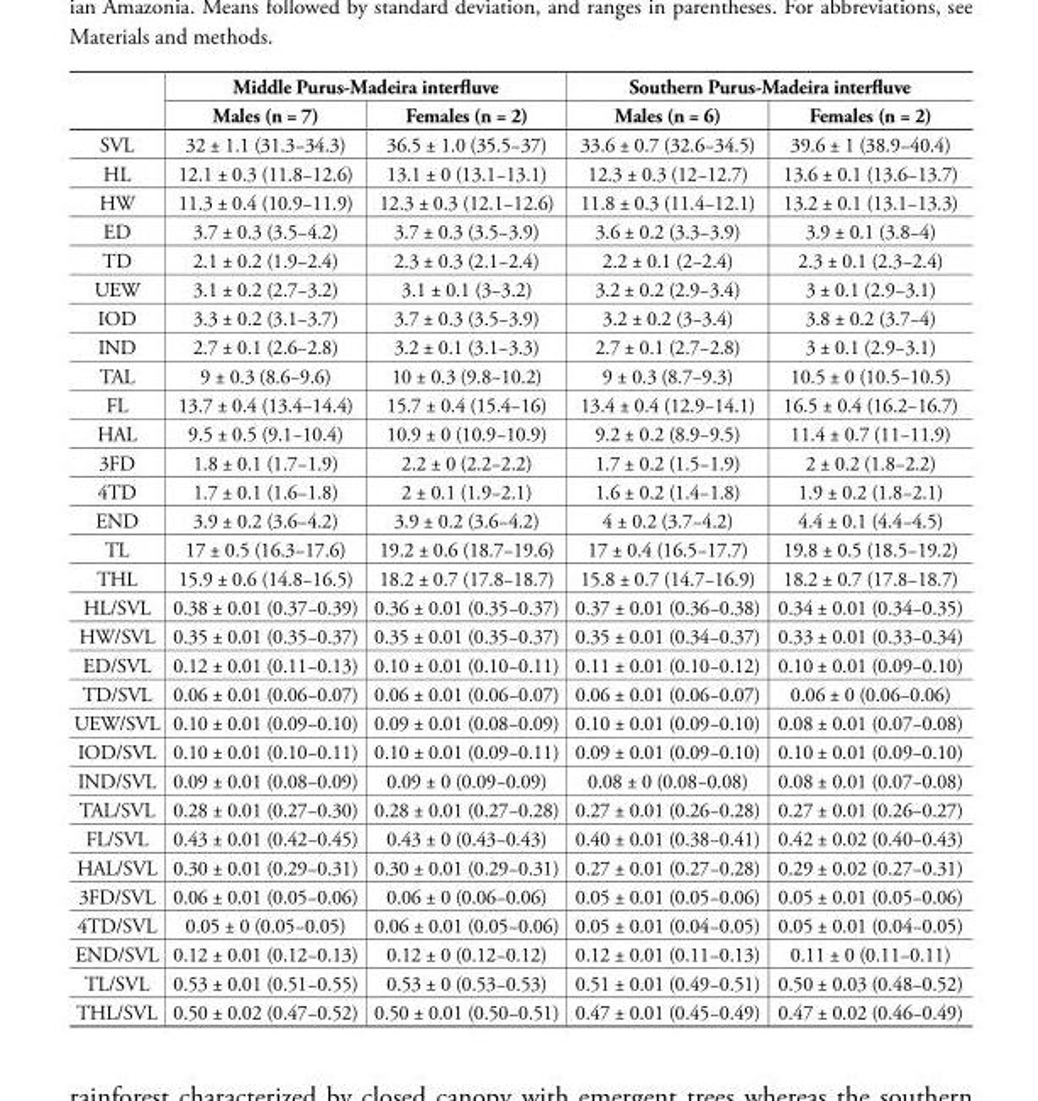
<table><thead><tr><td rowspan="2"></td><td colspan="2">Middle Purus-Madeira interfluve</td><td colspan="2">Southern Purus-Madeira interfluve</td></tr><tr><td>Males (n = 7)</td><td>Females (n = 2)</td><td>Males (n = 6)</td><td>Females (n = 2)</td></tr></thead><tbody><tr><td>SVL</td><td>32 ± 1.1 (31.3−34.3)</td><td>36.5 ± 1.0 (35.5−37)</td><td>33.6 ± 0.7 (32.6−34.5)</td><td>39.6 ± 1 (38.9−40.4)</td></tr><tr><td>HL</td><td>12.1 ± 0.3 (11.8−12.6)</td><td>13.1 ± 0 (13.1−13.1)</td><td>12.3 ± 0.3 (12−12.7)</td><td>13.6 ± 0.1 (13.6−13.7)</td></tr><tr><td>HW</td><td>11.3 ± 0.4 (10.9−11.9)</td><td>12.3 ± 0.3 (12.1−12.6)</td><td>11.8 ± 0.3 (11.4−12.1)</td><td>13.2 ± 0.1 (13.1−13.3)</td></tr><tr><td>ED</td><td>3.7 ± 0.3 (3.5−4.2)</td><td>3.7 ± 0.3 (3.5−3.9)</td><td>3.6 ± 0.2 (3.3−3.9)</td><td>3.9 ± 0.1 (3.8−4)</td></tr><tr><td>TD</td><td>2.1 ± 0.2 (1.9−2.4)</td><td>2.3 ± 0.3 (2.1−2.4)</td><td>2.2 ± 0.1 (2−2.4)</td><td>2.3 ± 0.1 (2.3−2.4)</td></tr><tr><td>UEW</td><td>3.1 ± 0.2 (2.7−3.2)</td><td>3.1 ± 0.1 (3−3.2)</td><td>3.2 ± 0.2 (2.9−3.4)</td><td>3 ± 0.1 (2.9−3.1)</td></tr><tr><td>IOD</td><td>3.3 ± 0.2 (3.1−3.7)</td><td>3.7 ± 0.3 (3.5−3.9)</td><td>3.2 ± 0.2 (3−3.4)</td><td>3.8 ± 0.2 (3.7−4)</td></tr><tr><td>IND</td><td>2.7 ± 0.1 (2.6−2.8)</td><td>3.2 ± 0.1 (3.1−3.3)</td><td>2.7 ± 0.1 (2.7−2.8)</td><td>3 ± 0.1 (2.9−3.1)</td></tr><tr><td>TAL</td><td>9 ± 0.3 (8.6−9.6)</td><td>10 ± 0.3 (9.8−10.2)</td><td>9 ± 0.3 (8.7−9.3)</td><td>10.5 ± 0 (10.5−10.5)</td></tr><tr><td>FL</td><td>13.7 ± 0.4 (13.4−14.4)</td><td>15.7 ± 0.4 (15.4−16)</td><td>13.4 ± 0.4 (12.9−14.1)</td><td>16.5 ± 0.4 (16.2−16.7)</td></tr><tr><td>HAL</td><td>9.5 ± 0.5 (9.1−10.4)</td><td>10.9 ± 0 (10.9−10.9)</td><td>9.2 ± 0.2 (8.9−9.5)</td><td>11.4 ± 0.7 (11−11.9)</td></tr><tr><td>3FD</td><td>1.8 ± 0.1 (1.7−1.9)</td><td>2.2 ± 0 (2.2−2.2)</td><td>1.7 ± 0.2 (1.5−1.9)</td><td>2 ± 0.2 (1.8−2.2)</td></tr><tr><td>4TD</td><td>1.7 ± 0.1 (1.6−1.8)</td><td>2 ± 0.1 (1.9−2.1)</td><td>1.6 ± 0.2 (1.4−1.8)</td><td>1.9 ± 0.2 (1.8−2.1)</td></tr><tr><td>END</td><td>3.9 ± 0.2 (3.6−4.2)</td><td>3.9 ± 0.2 (3.6−4.2)</td><td>4 ± 0.2 (3.7−4.2)</td><td>4.4 ± 0.1 (4.4−4.5)</td></tr><tr><td>TL</td><td>17 ± 0.5 (16.3−17.6)</td><td>19.2 ± 0.6 (18.7−19.6)</td><td>17 ± 0.4 (16.5−17.7)</td><td>19.8 ± 0.5 (18.5−19.2)</td></tr><tr><td>THL</td><td>15.9 ± 0.6 (14.8−16.5)</td><td>18.2 ± 0.7 (17.8−18.7)</td><td>15.8 ± 0.7 (14.7−16.9)</td><td>18.2 ± 0.7 (17.8−18.7)</td></tr><tr><td>HL/SVL</td><td>0.38 ± 0.01 (0.37−0.39)</td><td>0.36 ± 0.01 (0.35−0.37)</td><td>0.37 ± 0.01 (0.36−0.38)</td><td>0.34 ± 0.01 (0.34−0.35)</td></tr><tr><td>HW/SVL</td><td>0.35 ± 0.01 (0.35−0.37)</td><td>0.35 ± 0.01 (0.35−0.37)</td><td>0.35 ± 0.01 (0.34−0.37)</td><td>0.33 ± 0.01 (0.33−0.34)</td></tr><tr><td>ED/SVL</td><td>0.12 ± 0.01 (0.11−0.13)</td><td>0.10 ± 0.01 (0.10−0.11)</td><td>0.11 ± 0.01 (0.10−0.12)</td><td>0.10 ± 0.01 (0.09−0.10)</td></tr><tr><td>TD/SVL</td><td>0.06 ± 0.01 (0.06−0.07)</td><td>0.06 ± 0.01 (0.06−0.07)</td><td>0.06 ± 0.01 (0.06−0.07)</td><td>0.06 ± 0 (0.06−0.06)</td></tr><tr><td>UEW/SVL</td><td>0.10 ± 0.01 (0.09−0.10)</td><td>0.09 ± 0.01 (0.08−0.09)</td><td>0.10 ± 0.01 (0.09−0.10)</td><td>0.08 ± 0.01 (0.07−0.08)</td></tr><tr><td>IOD/SVL</td><td>0.10 ± 0.01 (0.10−0.11)</td><td>0.10 ± 0.01 (0.09−0.11)</td><td>0.09 ± 0.01 (0.09−0.10)</td><td>0.10 ± 0.01 (0.09−0.10)</td></tr><tr><td>IND/SVL</td><td>0.09 ± 0.01 (0.08−0.09)</td><td>0.09 ± 0 (0.09−0.09)</td><td>0.08 ± 0 (0.08−0.08)</td><td>0.08 ± 0.01 (0.07−0.08)</td></tr><tr><td>TAL/SVL</td><td>0.28 ± 0.01 (0.27−0.30)</td><td>0.28 ± 0.01 (0.27−0.28)</td><td>0.27 ± 0.01 (0.26−0.28)</td><td>0.27 ± 0.01 (0.26−0.27)</td></tr><tr><td>FL/SVL</td><td>0.43 ± 0.01 (0.42−0.45)</td><td>0.43 ± 0 (0.43−0.43)</td><td>0.40 ± 0.01 (0.38−0.41)</td><td>0.42 ± 0.02 (0.40−0.43)</td></tr><tr><td>HAL/SVL</td><td>0.30 ± 0.01 (0.29−0.31)</td><td>0.30 ± 0.01 (0.29−0.31)</td><td>0.27 ± 0.01 (0.27−0.28)</td><td>0.29 ± 0.02 (0.27−0.31)</td></tr><tr><td>3FD/SVL</td><td>0.06 ± 0.01 (0.05−0.06)</td><td>0.06 ± 0 (0.06−0.06)</td><td>0.05 ± 0.01 (0.05−0.06)</td><td>0.05 ± 0.01 (0.05−0.06)</td></tr><tr><td>4TD/SVL</td><td>0.05 ± 0 (0.05−0.05)</td><td>0.06 ± 0.01 (0.05−0.06)</td><td>0.05 ± 0.01 (0.04−0.05)</td><td>0.05 ± 0.01 (0.04−0.05)</td></tr><tr><td>END/SVL</td><td>0.12 ± 0.01 (0.12−0.13)</td><td>0.12 ± 0 (0.12−0.12)</td><td>0.12 ± 0.01 (0.11−0.13)</td><td>0.11 ± 0 (0.11−0.11)</td></tr><tr><td>TL/SVL</td><td>0.53 ± 0.01 (0.51−0.55)</td><td>0.53 ± 0 (0.53−0.53)</td><td>0.51 ± 0.01 (0.49−0.51)</td><td>0.50 ± 0.03 (0.48−0.52)</td></tr><tr><td>THL/SVL</td><td>0.50 ± 0.02 (0.47−0.52)</td><td>0.50 ± 0.01 (0.50−0.51)</td><td>0.47 ± 0.01 (0.45−0.49)</td><td>0.47 ± 0.02 (0.46−0.49)</td></tr></tbody></table>